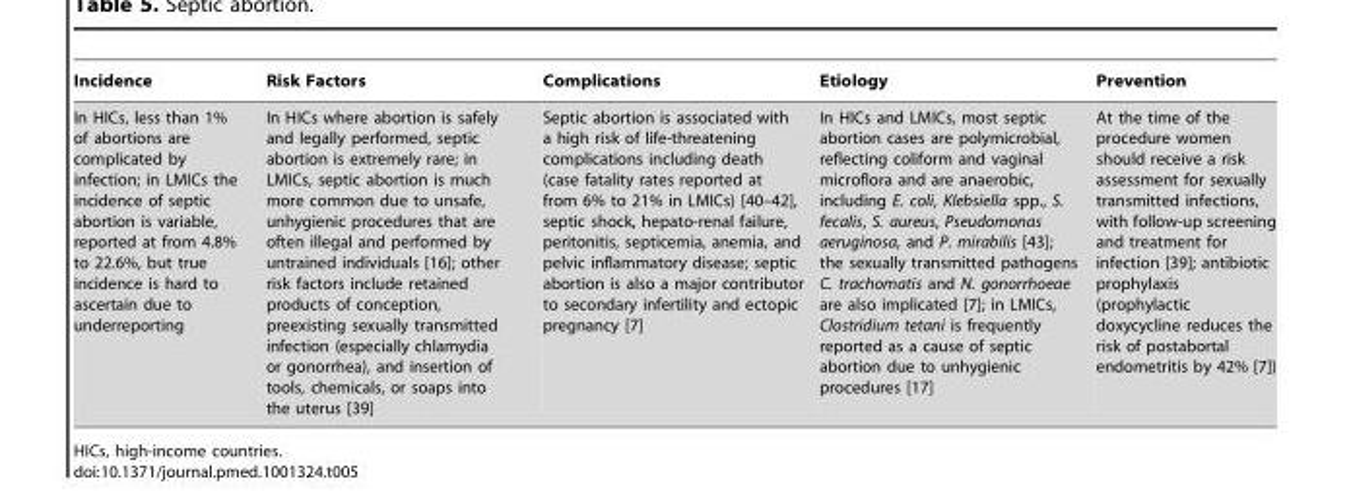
<table><thead><tr><td>Incidence</td><td>Risk Factors</td><td>Complications</td><td>Etiology</td><td>Prevention</td></tr></thead><tbody><tr><td>In HICs, less than 1% of abortions are complicated by infection; in LMICs the incidence of septic abortion is variable, reported at from 4.8% to 22.6%, but true incidence is hard to ascertain due to underreporting</td><td>In HICs where abortion is safely and legally performed, septic abortion is extremely rare; in LMICs, septic abortion is much more common due to unsafe, unhygienic procedures that are often illegal and performed by untrained individuals [16]; other risk factors include retained products of conception, preexisting sexually transmitted infection (especially chlamydia or gonorrhea), and insertion of tools, chemicals, or soaps into the uterus [39]</td><td>Septic abortion is associated with a high risk of life-threatening complications including death (case fatality rates reported at from 6% to 21% in LMICs) [40–42], septic shock, hepato-renal failure, peritonitis, septicemia, anemia, and pelvic inflammatory disease; septic abortion is also a major contributor to secondary infertility and ectopic pregnancy [7]</td><td>In HICs and LMICs, most septic abortion cases are polymicrobial, reflecting coliform and vaginal microflora and are anaerobic, including E. coli, Klebsiella spp., S. fecalis, S. aureus, Pseudomonas aeruginosa, and P. mirabilis [43]; the sexually transmitted pathogens C. trachomatis and N. gonorrhoeae are also implicated [7]; in LMICs, Clostridium tetani is frequently reported as a cause of septic abortion due to unhygienic procedures [17]</td><td>At the time of the procedure women should receive a risk assessment for sexually transmitted infections, with follow-up screening and treatment for infection [39]; antibiotic prophylaxis (prophylactic doxycycline reduces the risk of postabortal endometritis by 42% [7])</td></tr></tbody></table>